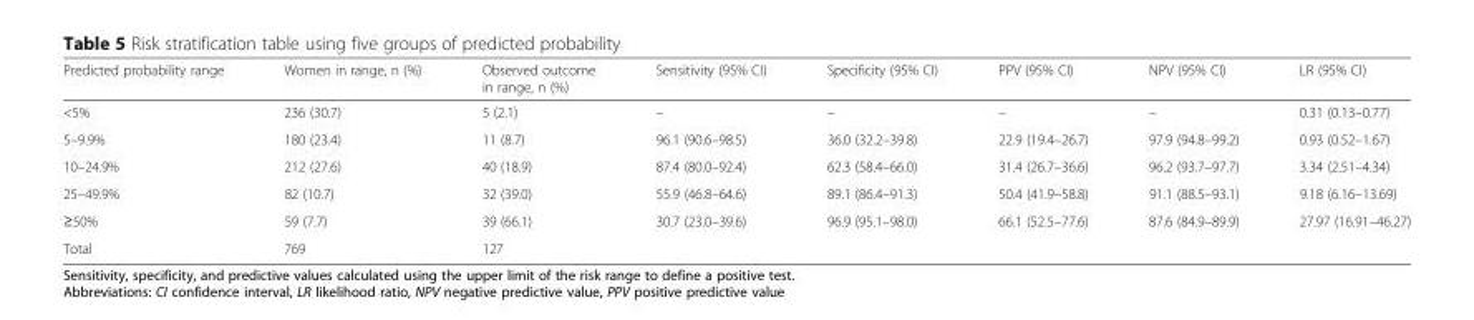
<table><thead><tr><td>Predicted probability range</td><td>Women in range, n (%)</td><td>Observed outcome in range, n (%)</td><td>Sensitivity (95% CI)</td><td>Specificity (95% CI)</td><td>PPV (95% CI)</td><td>NPV (95% CI)</td><td>LR (95% CI)</td></tr></thead><tbody><tr><td>&lt;5%</td><td>236 (30.7)</td><td>5 (2.1)</td><td>–</td><td>–</td><td>–</td><td>–</td><td>0.31 (0.13–0.77)</td></tr><tr><td>5–9.9%</td><td>180 (23.4)</td><td>11 (8.7)</td><td>96.1 (90.6–98.5)</td><td>36.0 (32.2–39.8)</td><td>22.9 (19.4–26.7)</td><td>97.9 (94.8–99.2)</td><td>0.93 (0.52–1.67)</td></tr><tr><td>10–24.9%</td><td>212 (27.6)</td><td>40 (18.9)</td><td>87.4 (80.0–92.4)</td><td>62.3 (58.4–66.0)</td><td>31.4 (26.7–36.6)</td><td>96.2 (93.7–97.7)</td><td>3.34 (2.51–4.34)</td></tr><tr><td>25–49.9%</td><td>82 (10.7)</td><td>32 (39.0)</td><td>55.9 (46.8–64.6)</td><td>89.1 (86.4–91.3)</td><td>50.4 (41.9–58.8)</td><td>91.1 (88.5–93.1)</td><td>9.18 (6.16–13.69)</td></tr><tr><td>≥50%</td><td>59 (7.7)</td><td>39 (66.1)</td><td>30.7 (23.0–39.6)</td><td>96.9 (95.1–98.0)</td><td>66.1 (52.5–77.6)</td><td>87.6 (84.9–89.9)</td><td>27.97 (16.91–46.27)</td></tr><tr><td>Total</td><td>769</td><td>127</td><td></td><td></td><td></td><td></td><td></td></tr></tbody></table>